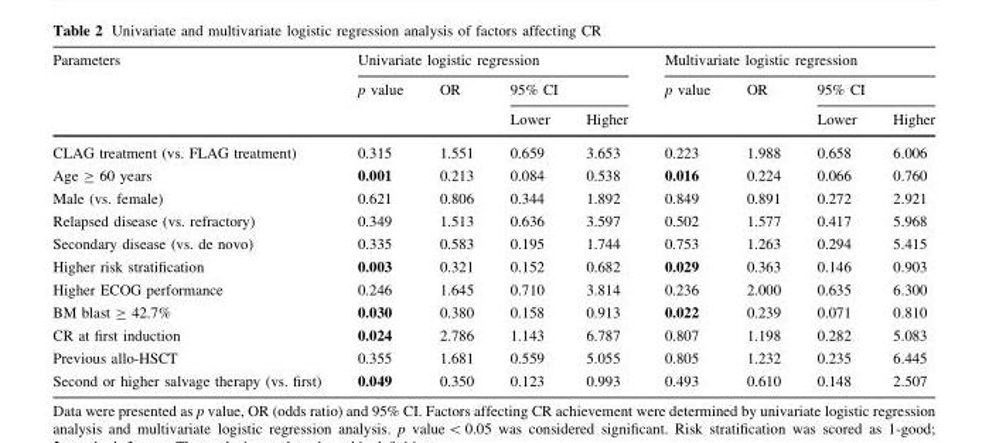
<table><thead><tr><td rowspan="3">Parameters</td><td colspan="4">Univariate logistic regression</td><td colspan="4">Multivariate logistic regression</td></tr><tr><td rowspan="2">p value</td><td rowspan="2">OR</td><td colspan="2">95% CI</td><td rowspan="2">p value</td><td rowspan="2">OR</td><td colspan="2">95% CI</td></tr><tr><td>Lower</td><td>Higher</td><td>Lower</td><td>Higher</td></tr></thead><tbody><tr><td>CLAG treatment (vs. FLAG treatment)</td><td>0.315</td><td>1.551</td><td>0.659</td><td>3.653</td><td>0.223</td><td>1.988</td><td>0.658</td><td>6.006</td></tr><tr><td>Age ≥ 60 years</td><td>0.001</td><td>0.213</td><td>0.084</td><td>0.538</td><td>0.016</td><td>0.224</td><td>0.066</td><td>0.760</td></tr><tr><td>Male (vs. female)</td><td>0.621</td><td>0.806</td><td>0.344</td><td>1.892</td><td>0.849</td><td>0.891</td><td>0.272</td><td>2.921</td></tr><tr><td>Relapsed disease (vs. refractory)</td><td>0.349</td><td>1.513</td><td>0.636</td><td>3.597</td><td>0.502</td><td>1.577</td><td>0.417</td><td>5.968</td></tr><tr><td>Secondary disease (vs. de novo)</td><td>0.335</td><td>0.583</td><td>0.195</td><td>1.744</td><td>0.753</td><td>1.263</td><td>0.294</td><td>5.415</td></tr><tr><td>Higher risk stratification</td><td>0.003</td><td>0.321</td><td>0.152</td><td>0.682</td><td>0.029</td><td>0.363</td><td>0.146</td><td>0.903</td></tr><tr><td>Higher ECOG performance</td><td>0.246</td><td>1.645</td><td>0.710</td><td>3.814</td><td>0.236</td><td>2.000</td><td>0.635</td><td>6.300</td></tr><tr><td>BM blast ≥ 42.7%</td><td>0.030</td><td>0.380</td><td>0.158</td><td>0.913</td><td>0.022</td><td>0.239</td><td>0.071</td><td>0.810</td></tr><tr><td>CR at first induction</td><td>0.024</td><td>2.786</td><td>1.143</td><td>6.787</td><td>0.807</td><td>1.198</td><td>0.282</td><td>5.083</td></tr><tr><td>Previous allo-HSCT</td><td>0.355</td><td>1.681</td><td>0.559</td><td>5.055</td><td>0.805</td><td>1.232</td><td>0.235</td><td>6.445</td></tr><tr><td>Second or higher salvage therapy (vs. first)</td><td>0.049</td><td>0.350</td><td>0.123</td><td>0.993</td><td>0.493</td><td>0.610</td><td>0.148</td><td>2.507</td></tr></tbody></table>